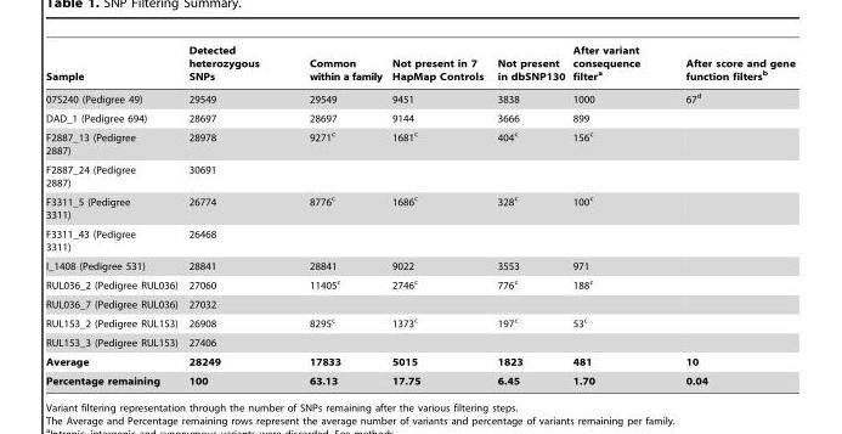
<table><thead><tr><td>Sample</td><td>Detected heterozygous SNPs</td><td>Common within a family</td><td>Not present in 7 HapMap Controls</td><td>Not present in dbSNP130</td><td>After variant consequence filter<sup>a</sup></td><td>After score and gene function filters<sup>b</sup></td></tr></thead><tbody><tr><td>07S240 (Pedigree 49)</td><td>29549</td><td>29549</td><td>9451</td><td>3838</td><td>1000</td><td>67<sup>d</sup></td></tr><tr><td>DAD_1 (Pedigree 694)</td><td>28697</td><td>28697</td><td>9144</td><td>3666</td><td>899</td><td></td></tr><tr><td>F2887_13 (Pedigree 2887)</td><td>28978</td><td>9271<sup>c</sup></td><td>1681<sup>c</sup></td><td>404<sup>c</sup></td><td>156<sup>c</sup></td><td></td></tr><tr><td>F2887_24 (Pedigree 2887)</td><td>30691</td><td></td><td></td><td></td><td></td><td></td></tr><tr><td>F3311_5 (Pedigree 3311)</td><td>26774</td><td>8776<sup>c</sup></td><td>1686<sup>c</sup></td><td>328<sup>c</sup></td><td>100<sup>c</sup></td><td></td></tr><tr><td>F3311_43 (Pedigree 3311)</td><td>26468</td><td></td><td></td><td></td><td></td><td></td></tr><tr><td>I_1408 (Pedigree 531)</td><td>28841</td><td>28841</td><td>9022</td><td>3553</td><td>971</td><td></td></tr><tr><td>RUL036_2 (Pedigree RUL036)</td><td>27060</td><td>11405<sup>c</sup></td><td>2746<sup>c</sup></td><td>776<sup>c</sup></td><td>188<sup>c</sup></td><td></td></tr><tr><td>RUL036_7 (Pedigree RUL036)</td><td>27032</td><td></td><td></td><td></td><td></td><td></td></tr><tr><td>RUL153_2 (Pedigree RUL153)</td><td>26908</td><td>8295<sup>c</sup></td><td>1373<sup>c</sup></td><td>197<sup>c</sup></td><td>53<sup>c</sup></td><td></td></tr><tr><td>RUL153_3 (Pedigree RUL153)</td><td>27406</td><td></td><td></td><td></td><td></td><td></td></tr><tr><td>Average</td><td>28249</td><td>17833</td><td>5015</td><td>1823</td><td>481</td><td>10</td></tr><tr><td>Percentage remaining</td><td>100</td><td>63.13</td><td>17.75</td><td>6.45</td><td>1.70</td><td>0.04</td></tr></tbody></table>